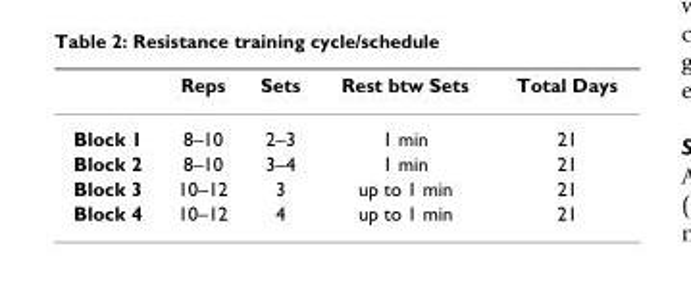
<table><thead><tr><td></td><td>Reps</td><td>Sets</td><td>Rest btw Sets</td><td>Total Days</td></tr></thead><tbody><tr><td>Block 1</td><td>8–10</td><td>2–3</td><td>1 min</td><td>21</td></tr><tr><td>Block 2</td><td>8–10</td><td>3–4</td><td>1 min</td><td>21</td></tr><tr><td>Block 3</td><td>10–12</td><td>3</td><td>up to 1 min</td><td>21</td></tr><tr><td>Block 4</td><td>10–12</td><td>4</td><td>up to 1 min</td><td>21</td></tr></tbody></table>